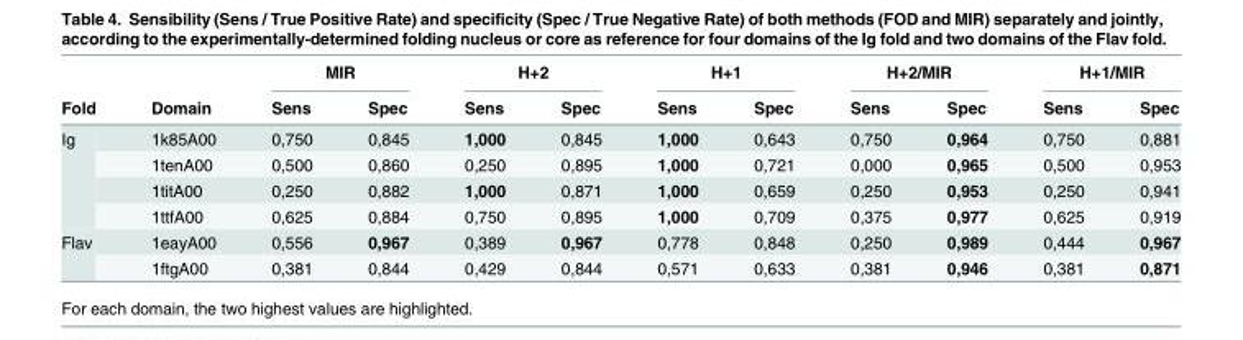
<table><thead><tr><td rowspan="2">Fold</td><td rowspan="2">Domain</td><td colspan="2">MIR</td><td colspan="2">H+2</td><td colspan="2">H+1</td><td colspan="2">H+2/MIR</td><td colspan="2">H+1/MIR</td></tr><tr><td>Sens</td><td>Spec</td><td>Sens</td><td>Spec</td><td>Sens</td><td>Spec</td><td>Sens</td><td>Spec</td><td>Sens</td><td>Spec</td></tr></thead><tbody><tr><td rowspan="4">Ig</td><td>1k85A00</td><td>0,750</td><td>0,845</td><td>1,000</td><td>0,845</td><td>1,000</td><td>0,643</td><td>0,750</td><td>0,964</td><td>0,750</td><td>0,881</td></tr><tr><td>1tenA00</td><td>0,500</td><td>0,860</td><td>0,250</td><td>0,895</td><td>1,000</td><td>0,721</td><td>0,000</td><td>0,965</td><td>0,500</td><td>0,953</td></tr><tr><td>1titA00</td><td>0,250</td><td>0,882</td><td>1,000</td><td>0,871</td><td>1,000</td><td>0,659</td><td>0,250</td><td>0,953</td><td>0,250</td><td>0,941</td></tr><tr><td>1ttfA00</td><td>0,625</td><td>0,884</td><td>0,750</td><td>0,895</td><td>1,000</td><td>0,709</td><td>0,375</td><td>0,977</td><td>0,625</td><td>0,919</td></tr><tr><td rowspan="2">Flav</td><td>1eayA00</td><td>0,556</td><td>0,967</td><td>0,389</td><td>0,967</td><td>0,778</td><td>0,848</td><td>0,250</td><td>0,989</td><td>0,444</td><td>0,967</td></tr><tr><td>1ftgA00</td><td>0,381</td><td>0,844</td><td>0,429</td><td>0,844</td><td>0,571</td><td>0,633</td><td>0,381</td><td>0,946</td><td>0,381</td><td>0,871</td></tr></tbody></table>